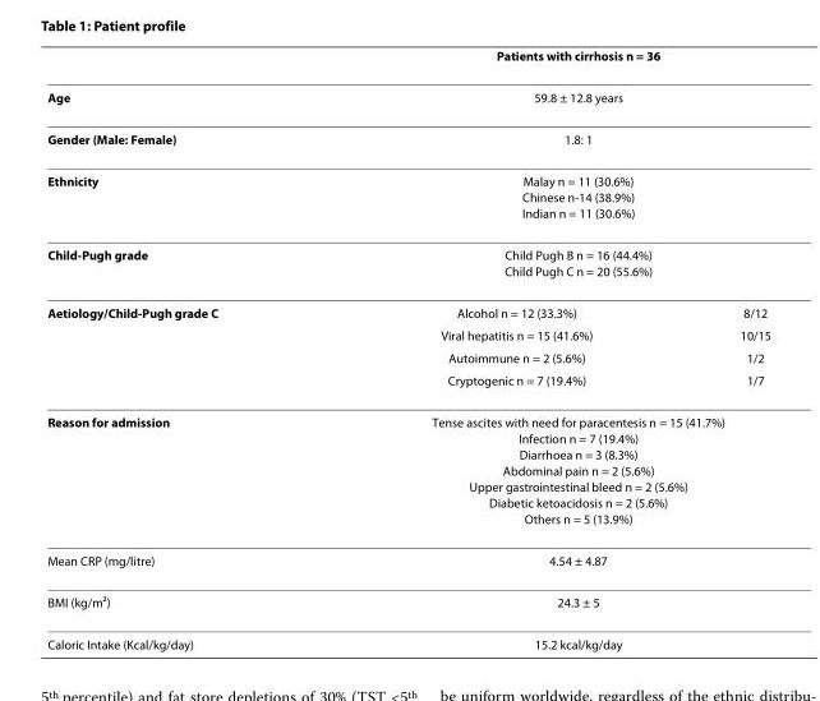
<table><thead><tr><td></td><td colspan="2">Patients with cirrhosis n = 36</td></tr></thead><tbody><tr><td>Age</td><td colspan="2">59.8 ± 12.8 years</td></tr><tr><td>Gender (Male: Female)</td><td colspan="2">1.8: 1</td></tr><tr><td>Ethnicity</td><td colspan="2">Malay n = 11 (30.6%) Chinese n-14 (38.9%) Indian n = 11 (30.6%)</td></tr><tr><td>Child-Pugh grade</td><td colspan="2">Child Pugh B n = 16 (44.4%) Child Pugh C n = 20 (55.6%)</td></tr><tr><td rowspan="4">Aetiology/Child-Pugh grade C</td><td>Alcohol n = 12 (33.3%)</td><td>8/12</td></tr><tr><td>Viral hepatitis n = 15 (41.6%)</td><td>10/15</td></tr><tr><td>Autoimmune n = 2 (5.6%)</td><td>1/2</td></tr><tr><td>Cryptogenic n = 7 (19.4%)</td><td>1/7</td></tr><tr><td>Reason for admission</td><td colspan="2">Tense ascites with need for paracentesis n = 15 (41.7%) Infection n = 7 (19.4%) Diarrhoea n = 3 (8.3%) Abdominal pain n = 2 (5.6%) Upper gastrointestinal bleed n = 2 (5.6%) Diabetic ketoacidosis n = 2 (5.6%) Others n = 5 (13.9%)</td></tr><tr><td>Mean CRP (mg/litre)</td><td colspan="2">4.54 ± 4.87</td></tr><tr><td>BMI (kg/m<sup>2</sup>)</td><td colspan="2">24.3 ± 5</td></tr><tr><td>Caloric Intake (Kcal/kg/day)</td><td colspan="2">15.2 kcal/kg/day</td></tr></tbody></table>